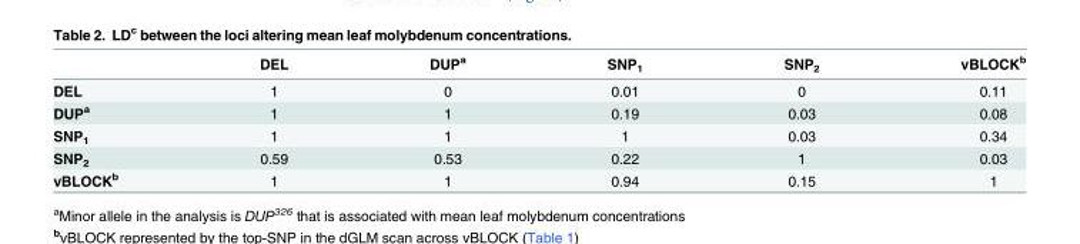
<table><thead><tr><td></td><td>DEL</td><td>DUP<sup>a</sup></td><td>SNP<sub>1</sub></td><td>SNP<sub>2</sub></td><td>vBLOCK<sup>b</sup></td></tr></thead><tbody><tr><td>DEL</td><td>1</td><td>0</td><td>0.01</td><td>0</td><td>0.11</td></tr><tr><td>DUP<sup>a</sup></td><td>1</td><td>1</td><td>0.19</td><td>0.03</td><td>0.08</td></tr><tr><td>SNP<sub>1</sub></td><td>1</td><td>1</td><td>1</td><td>0.03</td><td>0.34</td></tr><tr><td>SNP<sub>2</sub></td><td>0.59</td><td>0.53</td><td>0.22</td><td>1</td><td>0.03</td></tr><tr><td>vBLOCK<sup>b</sup></td><td>1</td><td>1</td><td>0.94</td><td>0.15</td><td>1</td></tr></tbody></table>